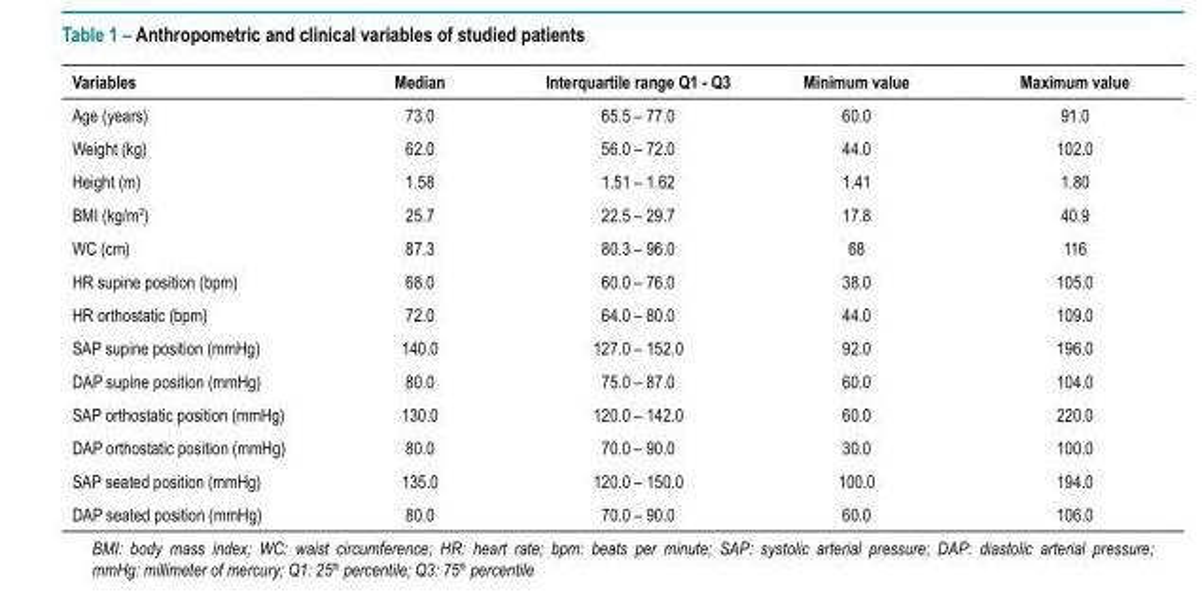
<table><thead><tr><td>Variables</td><td>Median</td><td>Interquartile range Q1 - Q3</td><td>Minimum value</td><td>Maximum value</td></tr></thead><tbody><tr><td>Age (years)</td><td>73.0</td><td>65.5 – 77.0</td><td>60.0</td><td>91.0</td></tr><tr><td>Weight (kg)</td><td>62.0</td><td>56.0 – 72.0</td><td>44.0</td><td>102.0</td></tr><tr><td>Height (m)</td><td>1.58</td><td>1.51 – 1.62</td><td>1.41</td><td>1.80</td></tr><tr><td>BMI (kg/m<sup>2</sup>)</td><td>25.7</td><td>22.5 – 29.7</td><td>17.8</td><td>40.9</td></tr><tr><td>WC (cm)</td><td>87.3</td><td>80.3 – 96.0</td><td>68</td><td>116</td></tr><tr><td>HR supine position (bpm)</td><td>68.0</td><td>60.0 – 76.0</td><td>38.0</td><td>105.0</td></tr><tr><td>HR orthostatic (bpm)</td><td>72.0</td><td>64.0 – 80.0</td><td>44.0</td><td>109.0</td></tr><tr><td>SAP supine position (mmHg)</td><td>140.0</td><td>127.0 – 152.0</td><td>92.0</td><td>196.0</td></tr><tr><td>DAP supine position (mmHg)</td><td>80.0</td><td>75.0 – 87.0</td><td>60.0</td><td>104.0</td></tr><tr><td>SAP orthostatic position (mmHg)</td><td>130.0</td><td>120.0 – 142.0</td><td>60.0</td><td>220.0</td></tr><tr><td>DAP orthostatic position (mmHg)</td><td>80.0</td><td>70.0 – 90.0</td><td>30.0</td><td>100.0</td></tr><tr><td>SAP seated position (mmHg)</td><td>135.0</td><td>120.0 – 150.0</td><td>100.0</td><td>194.0</td></tr><tr><td>DAP seated position (mmHg)</td><td>80.0</td><td>70.0 – 90.0</td><td>60.0</td><td>106.0</td></tr></tbody></table>